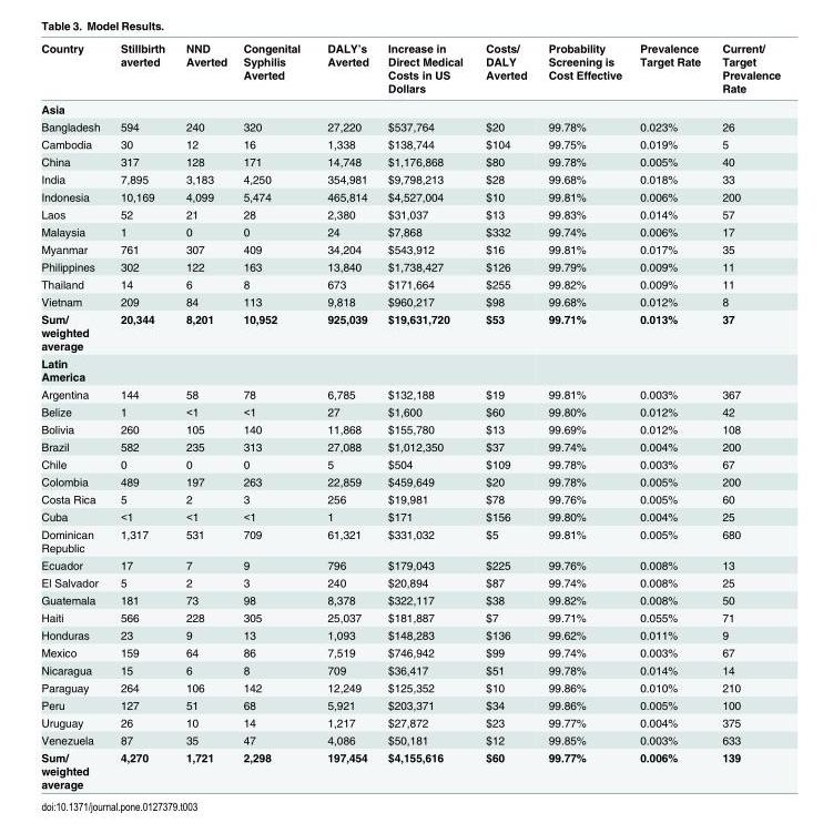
<table><thead><tr><td>Country</td><td>Stillbirth averted</td><td>NND Averted</td><td>Congenital Syphilis Averted</td><td>DALY’s Averted</td><td>Increase in Direct Medical Costs in US Dollars</td><td>Costs/ DALY Averted</td><td>Probability Screening is Cost Effective</td><td>Prevalence Target Rate</td><td>Current/ Target Prevalence Rate</td></tr></thead><tbody><tr><td colspan="10">Asia</td></tr><tr><td>Bangladesh</td><td>594</td><td>240</td><td>320</td><td>27,220</td><td>$537,764</td><td>$20</td><td>99.78%</td><td>0.023%</td><td>26</td></tr><tr><td>Cambodia</td><td>30</td><td>12</td><td>16</td><td>1,338</td><td>$138,744</td><td>$104</td><td>99.75%</td><td>0.019%</td><td>5</td></tr><tr><td>China</td><td>317</td><td>128</td><td>171</td><td>14,748</td><td>$1,176,868</td><td>$80</td><td>99.78%</td><td>0.005%</td><td>40</td></tr><tr><td>India</td><td>7,895</td><td>3,183</td><td>4,250</td><td>354,981</td><td>$9,798,213</td><td>$28</td><td>99.68%</td><td>0.018%</td><td>33</td></tr><tr><td>Indonesia</td><td>10,169</td><td>4,099</td><td>5,474</td><td>465,814</td><td>$4,527,004</td><td>$10</td><td>99.81%</td><td>0.006%</td><td>200</td></tr><tr><td>Laos</td><td>52</td><td>21</td><td>28</td><td>2,380</td><td>$31,037</td><td>$13</td><td>99.83%</td><td>0.014%</td><td>57</td></tr><tr><td>Malaysia</td><td>1</td><td>0</td><td>0</td><td>24</td><td>$7,868</td><td>$332</td><td>99.74%</td><td>0.006%</td><td>17</td></tr><tr><td>Myanmar</td><td>761</td><td>307</td><td>409</td><td>34,204</td><td>$543,912</td><td>$16</td><td>99.81%</td><td>0.017%</td><td>35</td></tr><tr><td>Philippines</td><td>302</td><td>122</td><td>163</td><td>13,840</td><td>$1,738,427</td><td>$126</td><td>99.79%</td><td>0.009%</td><td>11</td></tr><tr><td>Thailand</td><td>14</td><td>6</td><td>8</td><td>673</td><td>$171,664</td><td>$255</td><td>99.82%</td><td>0.009%</td><td>11</td></tr><tr><td>Vietnam</td><td>209</td><td>84</td><td>113</td><td>9,818</td><td>$960,217</td><td>$98</td><td>99.68%</td><td>0.012%</td><td>8</td></tr><tr><td>Sum/ weighted average</td><td>20,344</td><td>8,201</td><td>10,952</td><td>925,039</td><td>$19,631,720</td><td>$53</td><td>99.71%</td><td>0.013%</td><td>37</td></tr><tr><td colspan="10">Latin America</td></tr><tr><td>Argentina</td><td>144</td><td>58</td><td>78</td><td>6,785</td><td>$132,188</td><td>$19</td><td>99.81%</td><td>0.003%</td><td>367</td></tr><tr><td>Belize</td><td>1</td><td>&lt;1</td><td>&lt;1</td><td>27</td><td>$1,600</td><td>$60</td><td>99.80%</td><td>0.012%</td><td>42</td></tr><tr><td>Bolivia</td><td>260</td><td>105</td><td>140</td><td>11,868</td><td>$155,780</td><td>$13</td><td>99.69%</td><td>0.012%</td><td>108</td></tr><tr><td>Brazil</td><td>582</td><td>235</td><td>313</td><td>27,088</td><td>$1,012,350</td><td>$37</td><td>99.74%</td><td>0.004%</td><td>200</td></tr><tr><td>Chile</td><td>0</td><td>0</td><td>0</td><td>5</td><td>$504</td><td>$109</td><td>99.78%</td><td>0.003%</td><td>67</td></tr><tr><td>Colombia</td><td>489</td><td>197</td><td>263</td><td>22,859</td><td>$459,649</td><td>$20</td><td>99.78%</td><td>0.005%</td><td>200</td></tr><tr><td>Costa Rica</td><td>5</td><td>2</td><td>3</td><td>256</td><td>$19,981</td><td>$78</td><td>99.76%</td><td>0.005%</td><td>60</td></tr><tr><td>Cuba</td><td>&lt;1</td><td>&lt;1</td><td>&lt;1</td><td>1</td><td>$171</td><td>$156</td><td>99.80%</td><td>0.004%</td><td>25</td></tr><tr><td>Dominican Republic</td><td>1,317</td><td>531</td><td>709</td><td>61,321</td><td>$331,032</td><td>$5</td><td>99.81%</td><td>0.005%</td><td>680</td></tr><tr><td>Ecuador</td><td>17</td><td>7</td><td>9</td><td>796</td><td>$179,043</td><td>$225</td><td>99.76%</td><td>0.008%</td><td>13</td></tr><tr><td>El Salvador</td><td>5</td><td>2</td><td>3</td><td>240</td><td>$20,894</td><td>$87</td><td>99.74%</td><td>0.008%</td><td>25</td></tr><tr><td>Guatemala</td><td>181</td><td>73</td><td>98</td><td>8,378</td><td>$322,117</td><td>$38</td><td>99.82%</td><td>0.008%</td><td>50</td></tr><tr><td>Haiti</td><td>566</td><td>228</td><td>305</td><td>25,037</td><td>$181,887</td><td>$7</td><td>99.71%</td><td>0.055%</td><td>71</td></tr><tr><td>Honduras</td><td>23</td><td>9</td><td>13</td><td>1,093</td><td>$148,283</td><td>$136</td><td>99.62%</td><td>0.011%</td><td>9</td></tr><tr><td>Mexico</td><td>159</td><td>64</td><td>86</td><td>7,519</td><td>$746,942</td><td>$99</td><td>99.74%</td><td>0.003%</td><td>67</td></tr><tr><td>Nicaragua</td><td>15</td><td>6</td><td>8</td><td>709</td><td>$36,417</td><td>$51</td><td>99.78%</td><td>0.014%</td><td>14</td></tr><tr><td>Paraguay</td><td>264</td><td>106</td><td>142</td><td>12,249</td><td>$125,352</td><td>$10</td><td>99.86%</td><td>0.010%</td><td>210</td></tr><tr><td>Peru</td><td>127</td><td>51</td><td>68</td><td>5,921</td><td>$203,371</td><td>$34</td><td>99.86%</td><td>0.005%</td><td>100</td></tr><tr><td>Uruguay</td><td>26</td><td>10</td><td>14</td><td>1,217</td><td>$27,872</td><td>$23</td><td>99.77%</td><td>0.004%</td><td>375</td></tr><tr><td>Venezuela</td><td>87</td><td>35</td><td>47</td><td>4,086</td><td>$50,181</td><td>$12</td><td>99.85%</td><td>0.003%</td><td>633</td></tr><tr><td>Sum/ weighted average</td><td>4,270</td><td>1,721</td><td>2,298</td><td>197,454</td><td>$4,155,616</td><td>$60</td><td>99.77%</td><td>0.006%</td><td>139</td></tr></tbody></table>